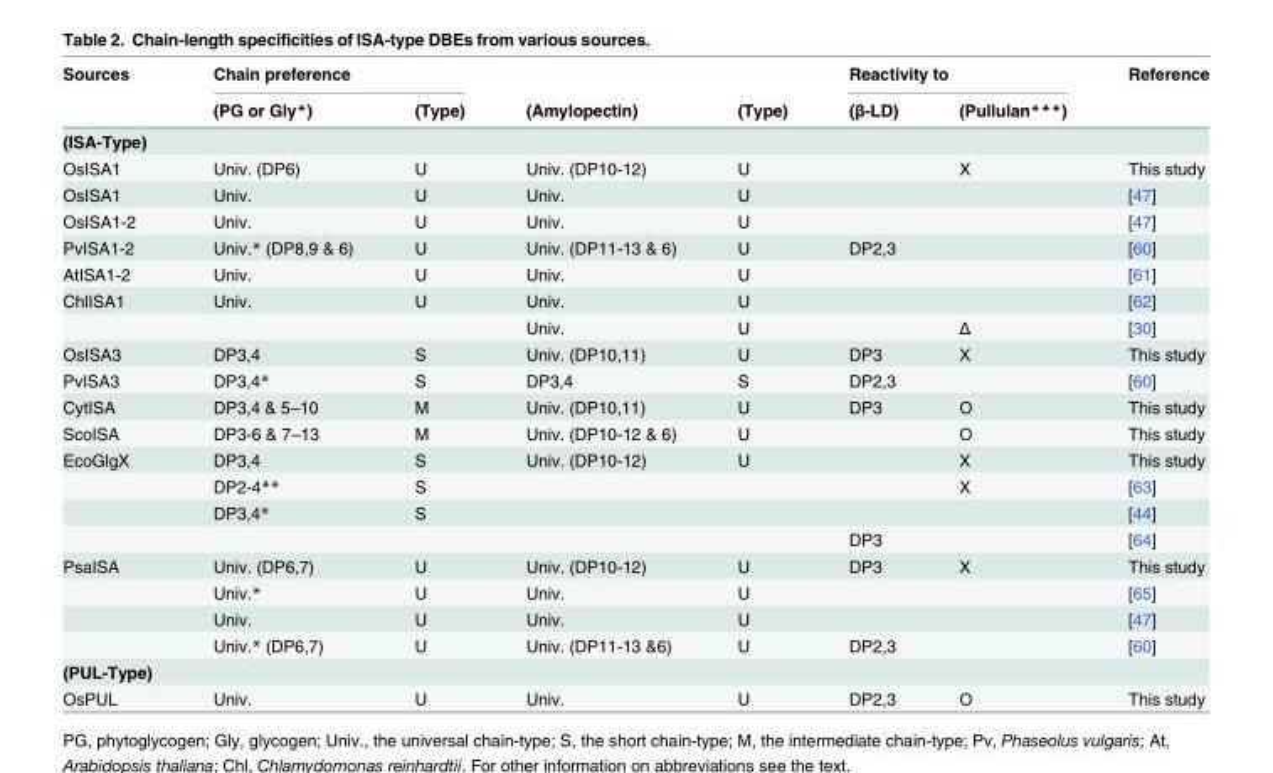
<table><thead><tr><td rowspan="2">Sources</td><td colspan="2">Chain preference</td><td rowspan="2">(Amylopectin)</td><td rowspan="2">(Type)</td><td colspan="2">Reactivity to</td><td rowspan="2">Reference</td></tr><tr><td>(PG or Gly*)</td><td>(Type)</td><td>(β-LD)</td><td>(Pullulan***)</td></tr></thead><tbody><tr><td colspan="8">(ISA-Type)</td></tr><tr><td>OsISA1</td><td>Univ. (DP6)</td><td>U</td><td>Univ. (DP10-12)</td><td>U</td><td></td><td>X</td><td>This study</td></tr><tr><td>OsISA1</td><td>Univ.</td><td>U</td><td>Univ.</td><td>U</td><td></td><td></td><td>[47]</td></tr><tr><td>OsISA1-2</td><td>Univ.</td><td>U</td><td>Univ.</td><td>U</td><td></td><td></td><td>[47]</td></tr><tr><td>PvISA1-2</td><td>Univ.* (DP8,9 &amp; 6)</td><td>U</td><td>Univ. (DP11-13 &amp; 6)</td><td>U</td><td>DP2,3</td><td></td><td>[60]</td></tr><tr><td>AtISA1-2</td><td>Univ.</td><td>U</td><td>Univ.</td><td>U</td><td></td><td></td><td>[61]</td></tr><tr><td rowspan="2">ChlISA1</td><td>Univ.</td><td>U</td><td>Univ.</td><td>U</td><td></td><td></td><td>[62]</td></tr><tr><td></td><td></td><td>Univ.</td><td>U</td><td></td><td>Δ</td><td>[30]</td></tr><tr><td>OsISA3</td><td>DP3,4</td><td>S</td><td>Univ. (DP10,11)</td><td>U</td><td>DP3</td><td>Χ</td><td>This study</td></tr><tr><td>PvISA3</td><td>DP3,4*</td><td>S</td><td>DP3,4</td><td>S</td><td>DP2,3</td><td></td><td>[60]</td></tr><tr><td>CytISA</td><td>DP3,4 &amp; 5–10</td><td>M</td><td>Univ. (DP10,11)</td><td>U</td><td>DP3</td><td>Ο</td><td>This study</td></tr><tr><td>ScoISA</td><td>DP3-6 &amp; 7–13</td><td>M</td><td>Univ. (DP10-12 &amp; 6)</td><td>U</td><td></td><td>Ο</td><td>This study</td></tr><tr><td rowspan="4">EcoGlgX</td><td>DP3,4</td><td>S</td><td>Univ. (DP10-12)</td><td>U</td><td></td><td>X</td><td>This study</td></tr><tr><td>DP2-4**</td><td>S</td><td></td><td></td><td></td><td>X</td><td>[63]</td></tr><tr><td>DP3,4*</td><td>S</td><td></td><td></td><td></td><td></td><td>[44]</td></tr><tr><td></td><td></td><td></td><td></td><td>DP3</td><td></td><td>[64]</td></tr><tr><td rowspan="4">PsaISA</td><td>Univ. (DP6,7)</td><td>U</td><td>Univ. (DP10-12)</td><td>U</td><td>DP3</td><td>X</td><td>This study</td></tr><tr><td>Univ.*</td><td>U</td><td>Univ.</td><td>U</td><td></td><td></td><td>[65]</td></tr><tr><td>Univ.</td><td>U</td><td>Univ.</td><td>U</td><td></td><td></td><td>[47]</td></tr><tr><td>Univ.* (DP6,7)</td><td>U</td><td>Univ. (DP11-13 &amp;6)</td><td>U</td><td>DP2,3</td><td></td><td>[60]</td></tr><tr><td colspan="8">(PUL-Type)</td></tr><tr><td>OsPUL</td><td>Univ.</td><td>U</td><td>Univ.</td><td>U</td><td>DP2,3</td><td>Ο</td><td>This study</td></tr></tbody></table>